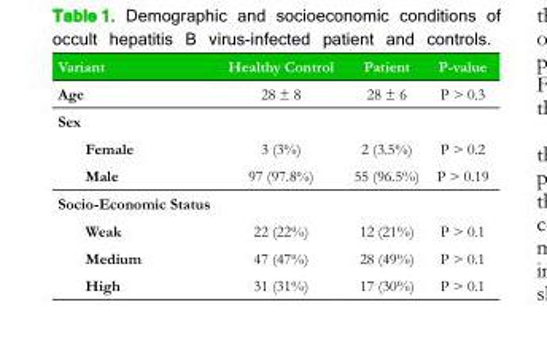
<table><tbody><tr><td>Variant</td><td>Healthy Control</td><td>Patient</td><td>P-value</td></tr><tr><td>Age</td><td>28 ± 8</td><td>28 ± 6</td><td>P &gt; 0.3</td></tr><tr><td colspan="4">Sex</td></tr><tr><td>Female</td><td>3 (3%)</td><td>2 (3.5%)</td><td>P &gt; 0.2</td></tr><tr><td>Male</td><td>97 (97.8%)</td><td>55 (96.5%)</td><td>P &gt; 0.19</td></tr><tr><td colspan="4">Socio-Economic Status</td></tr><tr><td>Weak</td><td>22 (22%)</td><td>12 (21%)</td><td>P &gt; 0.1</td></tr><tr><td>Medium</td><td>47 (47%)</td><td>28 (49%)</td><td>P &gt; 0.1</td></tr><tr><td>High</td><td>31 (31%)</td><td>17 (30%)</td><td>P &gt; 0.1</td></tr></tbody></table>